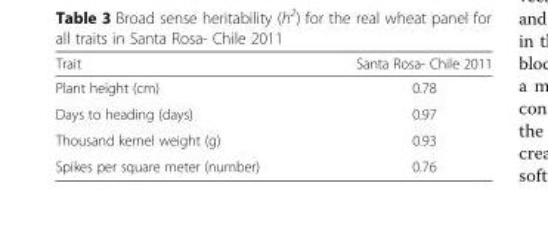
<table><thead><tr><td>Trait</td><td>Santa Rosa- Chile 2011</td></tr></thead><tbody><tr><td>Plant height (cm)</td><td>0.78</td></tr><tr><td>Days to heading (days)</td><td>0.97</td></tr><tr><td>Thousand kernel weight (g)</td><td>0.93</td></tr><tr><td>Spikes per square meter (number)</td><td>0.76</td></tr></tbody></table>